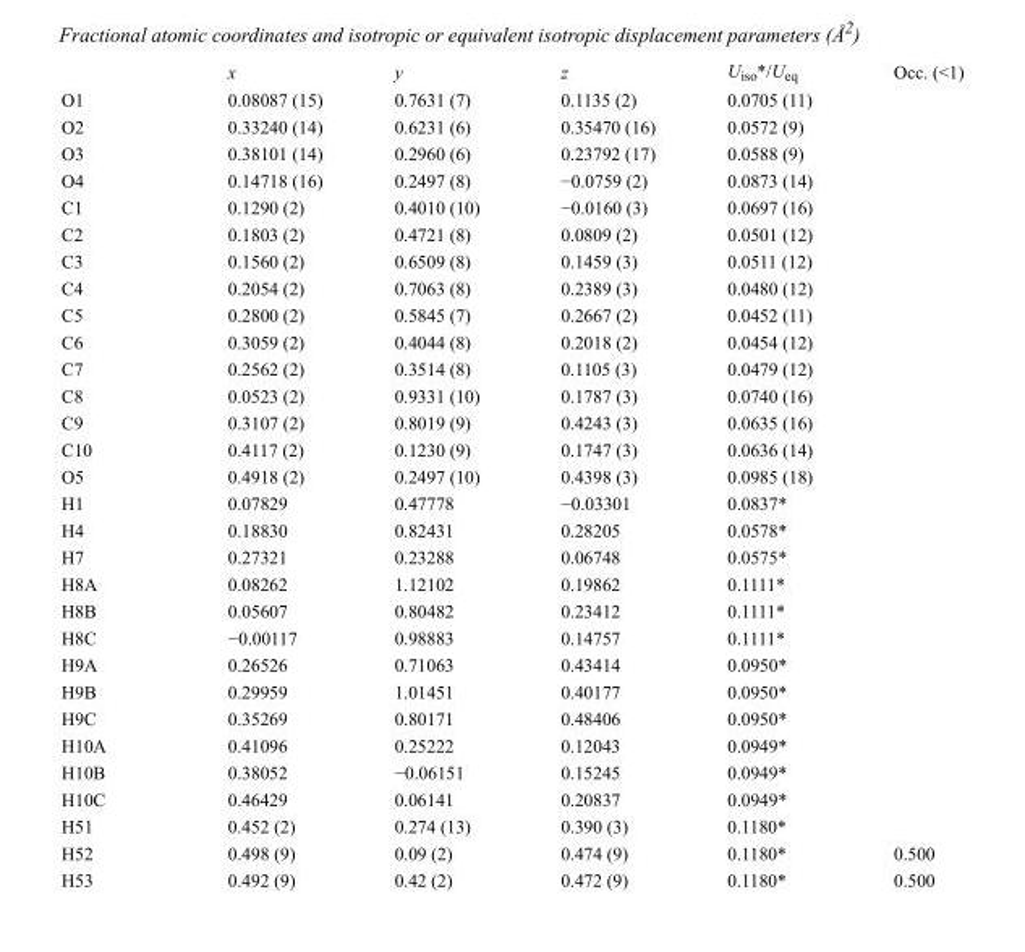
<table><thead><tr><td></td><td>x</td><td>y</td><td>z</td><td>U<sub>iso</sub>*/U<sub>eq</sub></td><td>Occ. (&lt;1)</td></tr></thead><tbody><tr><td>O1</td><td>0.08087 (15)</td><td>0.7631 (7)</td><td>0.1135 (2)</td><td>0.0705 (11)</td><td></td></tr><tr><td>O2</td><td>0.33240 (14)</td><td>0.6231 (6)</td><td>0.35470 (16)</td><td>0.0572 (9)</td><td></td></tr><tr><td>O3</td><td>0.38101 (14)</td><td>0.2960 (6)</td><td>0.23792 (17)</td><td>0.0588 (9)</td><td></td></tr><tr><td>O4</td><td>0.14718 (16)</td><td>0.2497 (8)</td><td>−0.0759 (2)</td><td>0.0873 (14)</td><td></td></tr><tr><td>C1</td><td>0.1290 (2)</td><td>0.4010 (10)</td><td>−0.0160 (3)</td><td>0.0697 (16)</td><td></td></tr><tr><td>C2</td><td>0.1803 (2)</td><td>0.4721 (8)</td><td>0.0809 (2)</td><td>0.0501 (12)</td><td></td></tr><tr><td>C3</td><td>0.1560 (2)</td><td>0.6509 (8)</td><td>0.1459 (3)</td><td>0.0511 (12)</td><td></td></tr><tr><td>C4</td><td>0.2054 (2)</td><td>0.7063 (8)</td><td>0.2389 (3)</td><td>0.0480 (12)</td><td></td></tr><tr><td>C5</td><td>0.2800 (2)</td><td>0.5845 (7)</td><td>0.2667 (2)</td><td>0.0452 (11)</td><td></td></tr><tr><td>C6</td><td>0.3059 (2)</td><td>0.4044 (8)</td><td>0.2018 (2)</td><td>0.0454 (12)</td><td></td></tr><tr><td>C7</td><td>0.2562 (2)</td><td>0.3514 (8)</td><td>0.1105 (3)</td><td>0.0479 (12)</td><td></td></tr><tr><td>C8</td><td>0.0523 (2)</td><td>0.9331 (10)</td><td>0.1787 (3)</td><td>0.0740 (16)</td><td></td></tr><tr><td>C9</td><td>0.3107 (2)</td><td>0.8019 (9)</td><td>0.4243 (3)</td><td>0.0635 (16)</td><td></td></tr><tr><td>C10</td><td>0.4117 (2)</td><td>0.1230 (9)</td><td>0.1747 (3)</td><td>0.0636 (14)</td><td></td></tr><tr><td>O5</td><td>0.4918 (2)</td><td>0.2497 (10)</td><td>0.4398 (3)</td><td>0.0985 (18)</td><td></td></tr><tr><td>H1</td><td>0.07829</td><td>0.47778</td><td>−0.03301</td><td>0.0837*</td><td></td></tr><tr><td>H4</td><td>0.18830</td><td>0.82431</td><td>0.28205</td><td>0.0578*</td><td></td></tr><tr><td>H7</td><td>0.27321</td><td>0.23288</td><td>0.06748</td><td>0.0575*</td><td></td></tr><tr><td>H8A</td><td>0.08262</td><td>1.12102</td><td>0.19862</td><td>0.1111*</td><td></td></tr><tr><td>H8B</td><td>0.05607</td><td>0.80482</td><td>0.23412</td><td>0.1111*</td><td></td></tr><tr><td>H8C</td><td>−0.00117</td><td>0.98883</td><td>0.14757</td><td>0.1111*</td><td></td></tr><tr><td>H9A</td><td>0.26526</td><td>0.71063</td><td>0.43414</td><td>0.0950*</td><td></td></tr><tr><td>H9B</td><td>0.29959</td><td>1.01451</td><td>0.40177</td><td>0.0950*</td><td></td></tr><tr><td>H9C</td><td>0.35269</td><td>0.80171</td><td>0.48406</td><td>0.0950*</td><td></td></tr><tr><td>H10A</td><td>0.41096</td><td>0.25222</td><td>0.12043</td><td>0.0949*</td><td></td></tr><tr><td>H10B</td><td>0.38052</td><td>−0.06151</td><td>0.15245</td><td>0.0949*</td><td></td></tr><tr><td>H10C</td><td>0.46429</td><td>0.06141</td><td>0.20837</td><td>0.0949*</td><td></td></tr><tr><td>H51</td><td>0.452 (2)</td><td>0.274 (13)</td><td>0.390 (3)</td><td>0.1180*</td><td></td></tr><tr><td>H52</td><td>0.498 (9)</td><td>0.09 (2)</td><td>0.474 (9)</td><td>0.1180*</td><td>0.500</td></tr><tr><td>H53</td><td>0.492 (9)</td><td>0.42 (2)</td><td>0.472 (9)</td><td>0.1180*</td><td>0.500</td></tr></tbody></table>